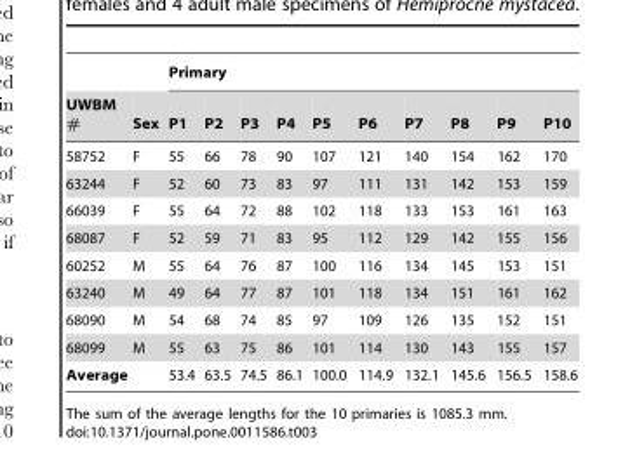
<table><thead><tr><td rowspan="2">UWBM #</td><td rowspan="2">Sex</td><td colspan="10">Primary</td></tr><tr><td>P1</td><td>P2</td><td>P3</td><td>P4</td><td>P5</td><td>P6</td><td>P7</td><td>P8</td><td>P9</td><td>P10</td></tr></thead><tbody><tr><td>58752</td><td>F</td><td>55</td><td>66</td><td>78</td><td>90</td><td>107</td><td>121</td><td>140</td><td>154</td><td>162</td><td>170</td></tr><tr><td>63244</td><td>F</td><td>52</td><td>60</td><td>73</td><td>83</td><td>97</td><td>111</td><td>131</td><td>142</td><td>153</td><td>159</td></tr><tr><td>66039</td><td>F</td><td>55</td><td>64</td><td>72</td><td>88</td><td>102</td><td>118</td><td>133</td><td>153</td><td>161</td><td>163</td></tr><tr><td>68087</td><td>F</td><td>52</td><td>59</td><td>71</td><td>83</td><td>95</td><td>112</td><td>129</td><td>142</td><td>155</td><td>156</td></tr><tr><td>60252</td><td>M</td><td>55</td><td>64</td><td>76</td><td>87</td><td>100</td><td>116</td><td>134</td><td>145</td><td>153</td><td>151</td></tr><tr><td>63240</td><td>M</td><td>49</td><td>64</td><td>77</td><td>87</td><td>101</td><td>118</td><td>134</td><td>151</td><td>161</td><td>162</td></tr><tr><td>68090</td><td>M</td><td>54</td><td>68</td><td>74</td><td>85</td><td>97</td><td>109</td><td>126</td><td>135</td><td>152</td><td>151</td></tr><tr><td>68099</td><td>M</td><td>55</td><td>63</td><td>75</td><td>86</td><td>101</td><td>114</td><td>130</td><td>143</td><td>155</td><td>157</td></tr><tr><td>Average</td><td></td><td>53.4</td><td>63.5</td><td>74.5</td><td>86.1</td><td>100.0</td><td>114.9</td><td>132.1</td><td>145.6</td><td>156.5</td><td>158.6</td></tr></tbody></table>